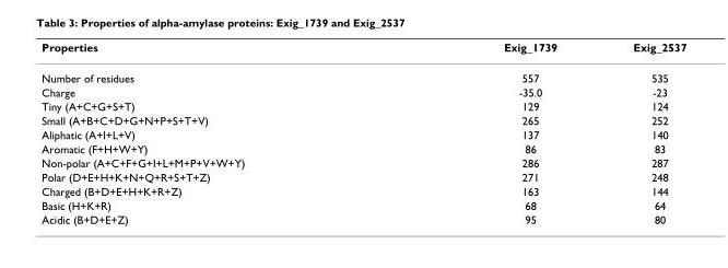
<table><thead><tr><td>Properties</td><td>Exig_1739</td><td>Exig_2537</td></tr></thead><tbody><tr><td>Number of residues</td><td>557</td><td>535</td></tr><tr><td>Charge</td><td>-35.0</td><td>-23</td></tr><tr><td>Tiny (A+C+G+S+T)</td><td>129</td><td>124</td></tr><tr><td>Small (A+B+C+D+G+N+P+S+T+V)</td><td>265</td><td>252</td></tr><tr><td>Aliphatic (A+I+L+V)</td><td>137</td><td>140</td></tr><tr><td>Aromatic (F+H+W+Y)</td><td>86</td><td>83</td></tr><tr><td>Non-polar (A+C+F+G+I+L+M+P+V+W+Y)</td><td>286</td><td>287</td></tr><tr><td>Polar (D+E+H+K+N+Q+R+S+T+Z)</td><td>271</td><td>248</td></tr><tr><td>Charged (B+D+E+H+K+R+Z)</td><td>163</td><td>144</td></tr><tr><td>Basic (H+K+R)</td><td>68</td><td>64</td></tr><tr><td>Acidic (B+D+E+Z)</td><td>95</td><td>80</td></tr></tbody></table>